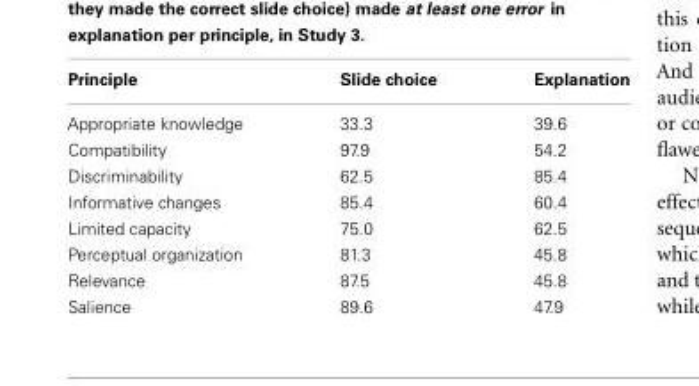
<table><thead><tr><td>Principle</td><td>Slide choice</td><td>Explanation</td></tr></thead><tbody><tr><td>Appropriate knowledge</td><td>33.3</td><td>39.6</td></tr><tr><td>Compatibility</td><td>97.9</td><td>54.2</td></tr><tr><td>Discriminability</td><td>62.5</td><td>85.4</td></tr><tr><td>Informative changes</td><td>85.4</td><td>60.4</td></tr><tr><td>Limited capacity</td><td>75.0</td><td>62.5</td></tr><tr><td>Perceptual organization</td><td>81.3</td><td>45.8</td></tr><tr><td>Relevance</td><td>87.5</td><td>45.8</td></tr><tr><td>Salience</td><td>89.6</td><td>47.9</td></tr></tbody></table>